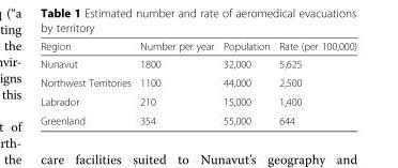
<table><thead><tr><td>Region</td><td>Number per year</td><td>Population</td><td>Rate (per 100,000)</td></tr></thead><tbody><tr><td>Nunavut</td><td>1800</td><td>32,000</td><td>5,625</td></tr><tr><td>Northwest Territories</td><td>1100</td><td>44,000</td><td>2,500</td></tr><tr><td>Labrador</td><td>210</td><td>15,000</td><td>1,400</td></tr><tr><td>Greenland</td><td>354</td><td>55,000</td><td>644</td></tr></tbody></table>